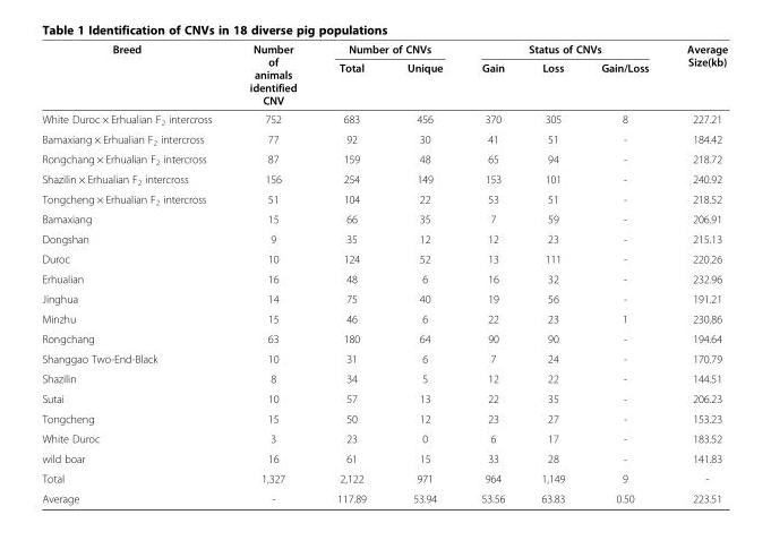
<table><thead><tr><td rowspan="2">Breed</td><td rowspan="2">Number of animals identified CNV</td><td colspan="2">Number of CNVs</td><td colspan="3">Status of CNVs</td><td rowspan="2">Average Size(kb)</td></tr><tr><td>Total</td><td>Unique</td><td>Gain</td><td>Loss</td><td>Gain/Loss</td></tr></thead><tbody><tr><td>White Duroc × Erhualian F<sub>2</sub> intercross</td><td>752</td><td>683</td><td>456</td><td>370</td><td>305</td><td>8</td><td>227.21</td></tr><tr><td>Bamaxiang × Erhualian F<sub>2</sub> intercross</td><td>77</td><td>92</td><td>30</td><td>41</td><td>51</td><td>-</td><td>184.42</td></tr><tr><td>Rongchang × Erhualian F<sub>2</sub> intercross</td><td>87</td><td>159</td><td>48</td><td>65</td><td>94</td><td>-</td><td>218.72</td></tr><tr><td>Shazilin × Erhualian F<sub>2</sub> intercross</td><td>156</td><td>254</td><td>149</td><td>153</td><td>101</td><td>-</td><td>240.92</td></tr><tr><td>Tongcheng × Erhualian F<sub>2</sub> intercross</td><td>51</td><td>104</td><td>22</td><td>53</td><td>51</td><td>-</td><td>218.52</td></tr><tr><td>Bamaxiang</td><td>15</td><td>66</td><td>35</td><td>7</td><td>59</td><td>-</td><td>206.91</td></tr><tr><td>Dongshan</td><td>9</td><td>35</td><td>12</td><td>12</td><td>23</td><td>-</td><td>215.13</td></tr><tr><td>Duroc</td><td>10</td><td>124</td><td>52</td><td>13</td><td>111</td><td>-</td><td>220.26</td></tr><tr><td>Erhualian</td><td>16</td><td>48</td><td>6</td><td>16</td><td>32</td><td>-</td><td>232.96</td></tr><tr><td>Jinghua</td><td>14</td><td>75</td><td>40</td><td>19</td><td>56</td><td>-</td><td>191.21</td></tr><tr><td>Minzhu</td><td>15</td><td>46</td><td>6</td><td>22</td><td>23</td><td>1</td><td>230.86</td></tr><tr><td>Rongchang</td><td>63</td><td>180</td><td>64</td><td>90</td><td>90</td><td>-</td><td>194.64</td></tr><tr><td>Shanggao Two-End-Black</td><td>10</td><td>31</td><td>6</td><td>7</td><td>24</td><td>-</td><td>170.79</td></tr><tr><td>Shazilin</td><td>8</td><td>34</td><td>5</td><td>12</td><td>22</td><td>-</td><td>144.51</td></tr><tr><td>Sutai</td><td>10</td><td>57</td><td>13</td><td>22</td><td>35</td><td>-</td><td>206.23</td></tr><tr><td>Tongcheng</td><td>15</td><td>50</td><td>12</td><td>23</td><td>27</td><td>-</td><td>153.23</td></tr><tr><td>White Duroc</td><td>3</td><td>23</td><td>0</td><td>6</td><td>17</td><td>-</td><td>183.52</td></tr><tr><td>wild boar</td><td>16</td><td>61</td><td>15</td><td>33</td><td>28</td><td>-</td><td>141.83</td></tr><tr><td>Total</td><td>1,327</td><td>2,122</td><td>971</td><td>964</td><td>1,149</td><td>9</td><td>-</td></tr><tr><td>Average</td><td>-</td><td>117.89</td><td>53.94</td><td>53.56</td><td>63.83</td><td>0.50</td><td>223.51</td></tr></tbody></table>